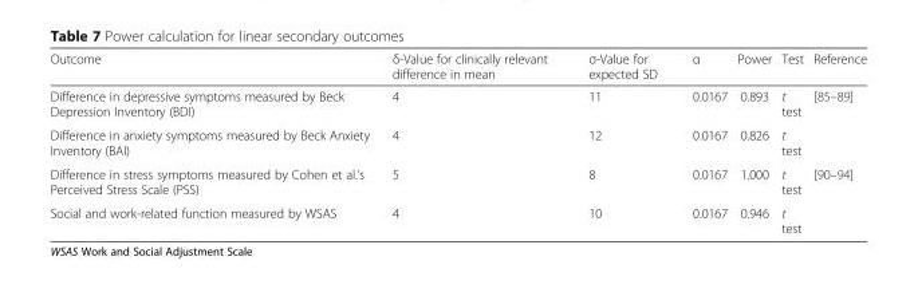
<table><thead><tr><td>Outcome</td><td>δ-Value for clinically relevant difference in mean</td><td>σ-Value for expected SD</td><td>α</td><td>Power</td><td>Test</td><td>Reference</td></tr></thead><tbody><tr><td>Difference in depressive symptoms measured by Beck Depression Inventory (BDI)</td><td>4</td><td>11</td><td>0.0167</td><td>0.893</td><td>t test</td><td rowspan="2">[85–89]</td></tr><tr><td>Difference in anxiety symptoms measured by Beck Anxiety Inventory (BAI)</td><td>4</td><td>12</td><td>0.0167</td><td>0.826</td><td>t test</td></tr><tr><td>Difference in stress symptoms measured by Cohen et al.’s Perceived Stress Scale (PSS)</td><td>5</td><td>8</td><td>0.0167</td><td>1.000</td><td>t test</td><td>[90–94]</td></tr><tr><td>Social and work-related function measured by WSAS</td><td>4</td><td>10</td><td>0.0167</td><td>0.946</td><td>t test</td><td></td></tr></tbody></table>